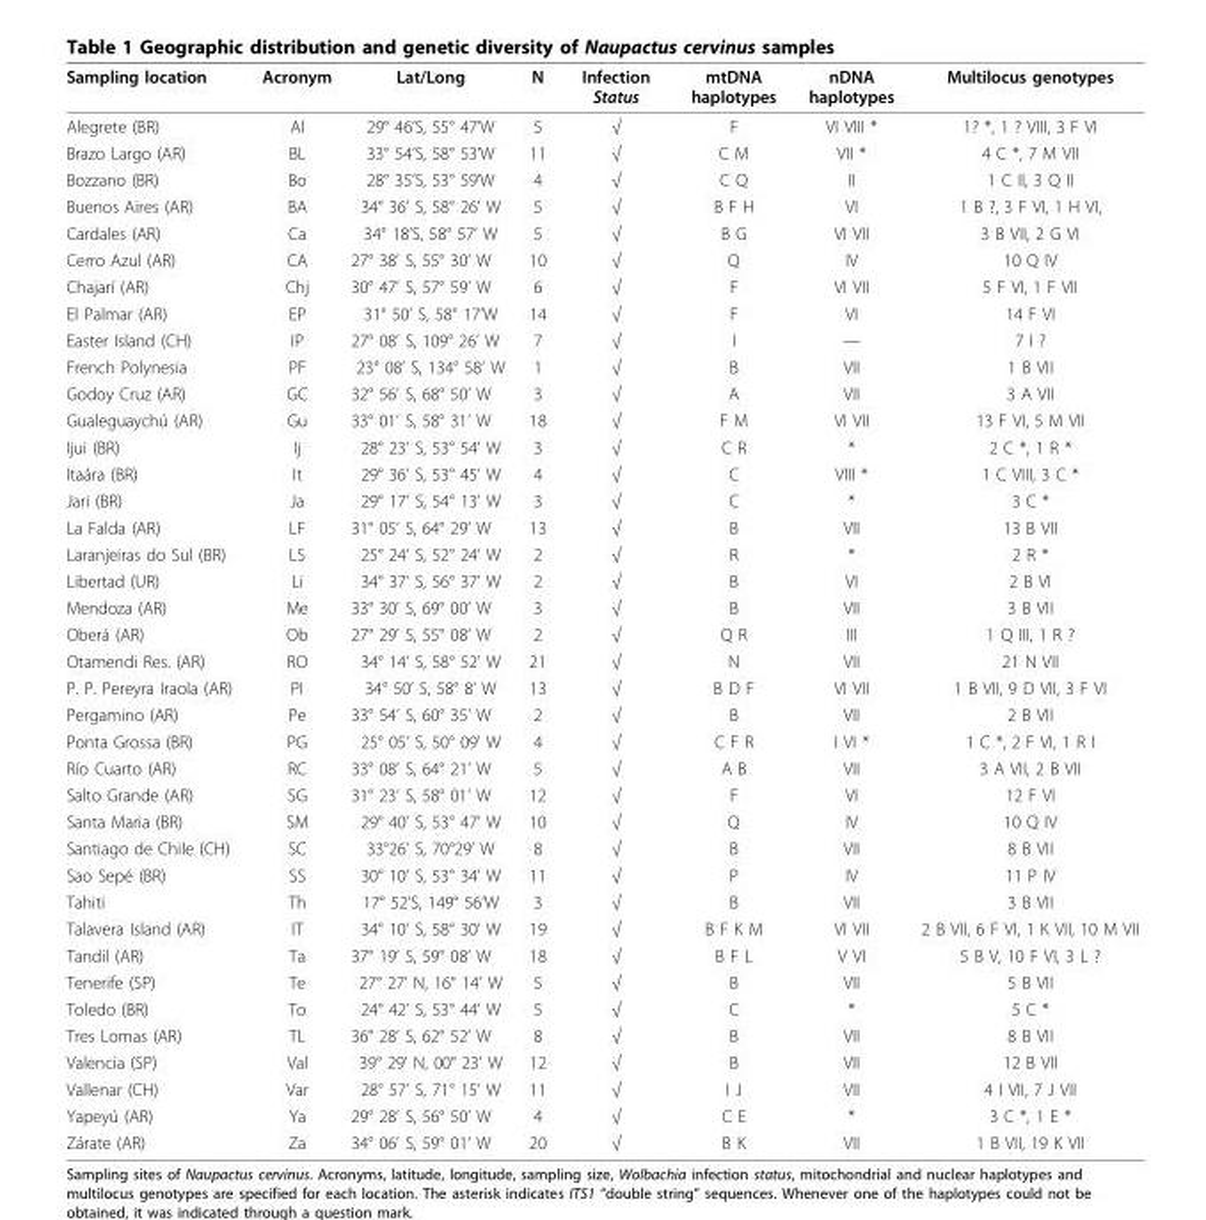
<table><thead><tr><td>Sampling location</td><td>Acronym</td><td>Lat/Long</td><td>N</td><td>Infection Status</td><td>mtDNA haplotypes</td><td>nDNA haplotypes</td><td>Multilocus genotypes</td></tr></thead><tbody><tr><td>Alegrete (BR)</td><td>Al</td><td>29° 46’S, 55° 47’W</td><td>5</td><td>√</td><td>F</td><td>VI VIII *</td><td>1? *, 1 ? VIII, 3 F VI</td></tr><tr><td>Brazo Largo (AR)</td><td>BL</td><td>33° 54’S, 58° 53’W</td><td>11</td><td>√</td><td>C M</td><td>VII *</td><td>4 C *, 7 M VII</td></tr><tr><td>Bozzano (BR)</td><td>Bo</td><td>28° 35’S, 53° 59’W</td><td>4</td><td>√</td><td>C Q</td><td>II</td><td>1 C II, 3 Q II</td></tr><tr><td>Buenos Aires (AR)</td><td>BA</td><td>34° 36’ S, 58° 26’ W</td><td>5</td><td>√</td><td>B F H</td><td>VI</td><td>1 B ?, 3 F VI, 1 H VI,</td></tr><tr><td>Cardales (AR)</td><td>Ca</td><td>34° 18’S, 58° 57’ W</td><td>5</td><td>√</td><td>B G</td><td>VI VII</td><td>3 B VII, 2 G VI</td></tr><tr><td>Cerro Azul (AR)</td><td>CA</td><td>27° 38’ S, 55° 30’ W</td><td>10</td><td>√</td><td>Q</td><td>IV</td><td>10 Q IV</td></tr><tr><td>Chajarí (AR)</td><td>Chj</td><td>30° 47’ S, 57° 59’ W</td><td>6</td><td>√</td><td>F</td><td>VI VII</td><td>5 F VI, 1 F VII</td></tr><tr><td>El Palmar (AR)</td><td>EP</td><td>31° 50’ S, 58° 17’W</td><td>14</td><td>√</td><td>F</td><td>VI</td><td>14 F VI</td></tr><tr><td>Easter Island (CH)</td><td>IP</td><td>27° 08’ S, 109° 26’ W</td><td>7</td><td>√</td><td>I</td><td>—</td><td>7 I ?</td></tr><tr><td>French Polynesia</td><td>PF</td><td>23° 08’ S, 134° 58’ W</td><td>1</td><td>√</td><td>B</td><td>VII</td><td>1 B VII</td></tr><tr><td>Godoy Cruz (AR)</td><td>GC</td><td>32° 56’ S, 68° 50’ W</td><td>3</td><td>√</td><td>A</td><td>VII</td><td>3 A VII</td></tr><tr><td>Gualeguaychú (AR)</td><td>Gu</td><td>33° 01’ S, 58° 31’ W</td><td>18</td><td>√</td><td>F M</td><td>VI VII</td><td>13 F VI, 5 M VII</td></tr><tr><td>Ijui (BR)</td><td>Ij</td><td>28° 23’ S, 53° 54’ W</td><td>3</td><td>√</td><td>C R</td><td>*</td><td>2 C *, 1 R *</td></tr><tr><td>Itaára (BR)</td><td>It</td><td>29° 36’ S, 53° 45’ W</td><td>4</td><td>√</td><td>C</td><td>VIII *</td><td>1 C VIII, 3 C *</td></tr><tr><td>Jari (BR)</td><td>Ja</td><td>29° 17’ S, 54° 13’ W</td><td>3</td><td>√</td><td>C</td><td>*</td><td>3 C *</td></tr><tr><td>La Falda (AR)</td><td>LF</td><td>31° 05’ S, 64° 29’ W</td><td>13</td><td>√</td><td>B</td><td>VII</td><td>13 B VII</td></tr><tr><td>Laranjeiras do Sul (BR)</td><td>LS</td><td>25° 24’ S, 52° 24’ W</td><td>2</td><td>√</td><td>R</td><td>*</td><td>2 R *</td></tr><tr><td>Libertad (UR)</td><td>Li</td><td>34° 37’ S, 56° 37’ W</td><td>2</td><td>√</td><td>B</td><td>VI</td><td>2 B VI</td></tr><tr><td>Mendoza (AR)</td><td>Me</td><td>33° 30’ S, 69° 00’ W</td><td>3</td><td>√</td><td>B</td><td>VII</td><td>3 B VII</td></tr><tr><td>Oberá (AR)</td><td>Ob</td><td>27° 29’ S, 55° 08’ W</td><td>2</td><td>√</td><td>Q R</td><td>III</td><td>1 Q III, 1 R ?</td></tr><tr><td>Otamendi Res. (AR)</td><td>RO</td><td>34° 14’ S, 58° 52’ W</td><td>21</td><td>√</td><td>N</td><td>VII</td><td>21 N VII</td></tr><tr><td>P. P. Pereyra Iraola (AR)</td><td>PI</td><td>34° 50’ S, 58° 8’ W</td><td>13</td><td>√</td><td>B D F</td><td>VI VII</td><td>1 B VII, 9 D VII, 3 F VI</td></tr><tr><td>Pergamino (AR)</td><td>Pe</td><td>33° 54’ S, 60° 35’ W</td><td>2</td><td>√</td><td>B</td><td>VII</td><td>2 B VII</td></tr><tr><td>Ponta Grossa (BR)</td><td>PG</td><td>25° 05’ S, 50° 09’ W</td><td>4</td><td>√</td><td>C F R</td><td>I VI *</td><td>1 C *, 2 F VI, 1 R I</td></tr><tr><td>Río Cuarto (AR)</td><td>RC</td><td>33° 08’ S, 64° 21’ W</td><td>5</td><td>√</td><td>A B</td><td>VII</td><td>3 A VII, 2 B VII</td></tr><tr><td>Salto Grande (AR)</td><td>SG</td><td>31° 23’ S, 58° 01’ W</td><td>12</td><td>√</td><td>F</td><td>VI</td><td>12 F VI</td></tr><tr><td>Santa Maria (BR)</td><td>SM</td><td>29° 40’ S, 53° 47’ W</td><td>10</td><td>√</td><td>Q</td><td>IV</td><td>10 Q IV</td></tr><tr><td>Santiago de Chile (CH)</td><td>SC</td><td>33°26’ S, 70°29’ W</td><td>8</td><td>√</td><td>B</td><td>VII</td><td>8 B VII</td></tr><tr><td>Sao Sepé (BR)</td><td>SS</td><td>30° 10’ S, 53° 34’ W</td><td>11</td><td>√</td><td>P</td><td>IV</td><td>11 P IV</td></tr><tr><td>Tahiti</td><td>Th</td><td>17° 52’S, 149° 56’W</td><td>3</td><td>√</td><td>B</td><td>VII</td><td>3 B VII</td></tr><tr><td>Talavera Island (AR)</td><td>IT</td><td>34° 10’ S, 58° 30’ W</td><td>19</td><td>√</td><td>B F K M</td><td>VI VII</td><td>2 B VII, 6 F VI, 1 K VII, 10 M VII</td></tr><tr><td>Tandil (AR)</td><td>Ta</td><td>37° 19’ S, 59° 08’ W</td><td>18</td><td>√</td><td>B F L</td><td>V VI</td><td>5 B V, 10 F VI, 3 L ?</td></tr><tr><td>Tenerife (SP)</td><td>Te</td><td>27° 27’ N, 16° 14’ W</td><td>5</td><td>√</td><td>B</td><td>VII</td><td>5 B VII</td></tr><tr><td>Toledo (BR)</td><td>To</td><td>24° 42’ S, 53° 44’ W</td><td>5</td><td>√</td><td>C</td><td>*</td><td>5 C *</td></tr><tr><td>Tres Lomas (AR)</td><td>TL</td><td>36° 28’ S, 62° 52’ W</td><td>8</td><td>√</td><td>B</td><td>VII</td><td>8 B VII</td></tr><tr><td>Valencia (SP)</td><td>Val</td><td>39° 29’ N, 00° 23’ W</td><td>12</td><td>√</td><td>B</td><td>VII</td><td>12 B VII</td></tr><tr><td>Vallenar (CH)</td><td>Var</td><td>28° 57’ S, 71° 15’ W</td><td>11</td><td>√</td><td>I J</td><td>VII</td><td>4 I VII, 7 J VII</td></tr><tr><td>Yapeyú (AR)</td><td>Ya</td><td>29° 28’ S, 56° 50’ W</td><td>4</td><td>√</td><td>C E</td><td>*</td><td>3 C *, 1 E *</td></tr><tr><td>Zárate (AR)</td><td>Za</td><td>34° 06’ S, 59° 01’ W</td><td>20</td><td>√</td><td>B K</td><td>VII</td><td>1 B VII, 19 K VII</td></tr></tbody></table>